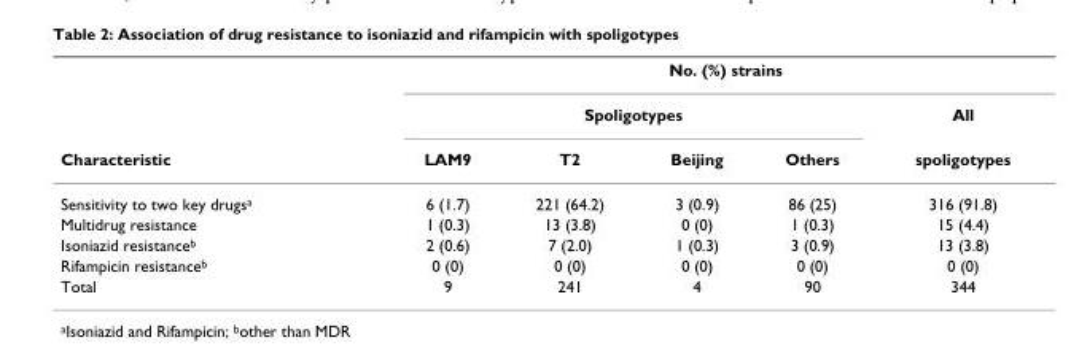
<table><thead><tr><td rowspan="3">Characteristic</td><td colspan="5">No. (%) strains</td></tr><tr><td colspan="4">Spoligotypes</td><td rowspan="2">All spoligotypes</td></tr><tr><td>LAM9</td><td>T2</td><td>Beijing</td><td>Others</td></tr></thead><tbody><tr><td>Sensitivity to two key drugs<sup>a</sup></td><td>6 (1.7)</td><td>221 (64.2)</td><td>3 (0.9)</td><td>86 (25)</td><td>316 (91.8)</td></tr><tr><td>Multidrug resistance</td><td>1 (0.3)</td><td>13 (3.8)</td><td>0 (0)</td><td>1 (0.3)</td><td>15 (4.4)</td></tr><tr><td>Isoniazid resistance<sup>b</sup></td><td>2 (0.6)</td><td>7 (2.0)</td><td>1 (0.3)</td><td>3 (0.9)</td><td>13 (3.8)</td></tr><tr><td>Rifampicin resistance<sup>b</sup></td><td>0 (0)</td><td>0 (0)</td><td>0 (0)</td><td>0 (0)</td><td>0 (0)</td></tr><tr><td>Total</td><td>9</td><td>241</td><td>4</td><td>90</td><td>344</td></tr></tbody></table>